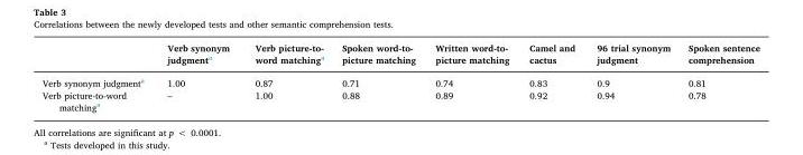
<table><thead><tr><td></td><td>Verb synonym judgment<sup>a</sup></td><td>Verb picture-to- word matching<sup>a</sup></td><td>Spoken word-to- picture matching</td><td>Written word-to- picture matching</td><td>Camel and cactus</td><td>96 trial synonym judgment</td><td>Spoken sentence comprehension</td></tr></thead><tbody><tr><td>Verb synonym judgment<sup>a</sup></td><td>1.00</td><td>0.87</td><td>0.71</td><td>0.74</td><td>0.83</td><td>0.9</td><td>0.81</td></tr><tr><td>Verb picture-to-word matching<sup>a</sup></td><td>–</td><td>1.00</td><td>0.88</td><td>0.89</td><td>0.92</td><td>0.94</td><td>0.78</td></tr></tbody></table>